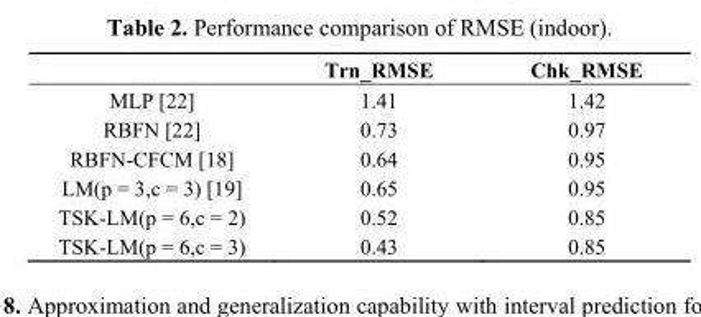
<table><thead><tr><td></td><td>Trn_RMSE</td><td>Chk_RMSE</td></tr></thead><tbody><tr><td>MLP [22]</td><td>1.41</td><td>1.42</td></tr><tr><td>RBFN [22]</td><td>0.73</td><td>0.97</td></tr><tr><td>RBFN-CFCM [18]</td><td>0.64</td><td>0.95</td></tr><tr><td>LM(p = 3,c = 3) [19]</td><td>0.65</td><td>0.95</td></tr><tr><td>TSK-LM(p = 6,c = 2)</td><td>0.52</td><td>0.85</td></tr><tr><td>TSK-LM(p = 6,c = 3)</td><td>0.43</td><td>0.85</td></tr></tbody></table>